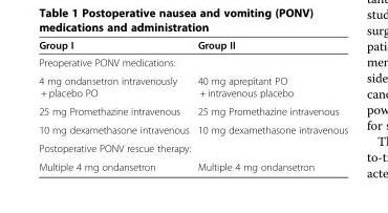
<table><thead><tr><td>Group I</td><td>Group II</td></tr></thead><tbody><tr><td colspan="2">Preoperative PONV medications:</td></tr><tr><td>4 mg ondansetron intravenously + placebo PO</td><td>40 mg aprepitant PO + intravenous placebo</td></tr><tr><td>25 mg Promethazine intravenous</td><td>25 mg Promethazine intravenous</td></tr><tr><td>10 mg dexamethasone intravenous</td><td>10 mg dexamethasone intravenous</td></tr><tr><td colspan="2">Postoperative PONV rescue therapy:</td></tr><tr><td>Multiple 4 mg ondansetron</td><td>Multiple 4 mg ondansetron</td></tr></tbody></table>